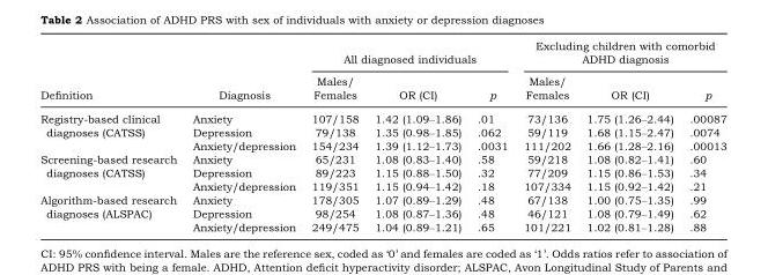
<table><thead><tr><td rowspan="2">Definition</td><td rowspan="2">Diagnosis</td><td colspan="3">All diagnosed individuals</td><td colspan="3">Excluding children with comorbid ADHD diagnosis</td></tr><tr><td>Males/ Females</td><td>OR (CI)</td><td>p</td><td>Males/ Females</td><td>OR (CI)</td><td>p</td></tr></thead><tbody><tr><td rowspan="3">Registry-based clinical diagnoses (CATSS)</td><td>Anxiety</td><td>107/158</td><td>1.42 (1.09–1.86)</td><td>.01</td><td>73/136</td><td>1.75 (1.26–2.44)</td><td>.00087</td></tr><tr><td>Depression</td><td>79/138</td><td>1.35 (0.98–1.85)</td><td>.062</td><td>59/119</td><td>1.68 (1.15–2.47)</td><td>.0074</td></tr><tr><td>Anxiety/depression</td><td>154/234</td><td>1.39 (1.12–1.73)</td><td>.0031</td><td>111/202</td><td>1.66 (1.28–2.16)</td><td>.00013</td></tr><tr><td rowspan="3">Screening-based research diagnoses (CATSS)</td><td>Anxiety</td><td>65/231</td><td>1.08 (0.83–1.40)</td><td>.58</td><td>59/218</td><td>1.08 (0.82–1.41)</td><td>.60</td></tr><tr><td>Depression</td><td>89/223</td><td>1.15 (0.88–1.50)</td><td>.32</td><td>77/209</td><td>1.15 (0.86–1.53)</td><td>.34</td></tr><tr><td>Anxiety/depression</td><td>119/351</td><td>1.15 (0.94–1.42)</td><td>.18</td><td>107/334</td><td>1.15 (0.92–1.42)</td><td>.21</td></tr><tr><td rowspan="3">Algorithm-based research diagnoses (ALSPAC)</td><td>Anxiety</td><td>178/305</td><td>1.07 (0.89–1.29)</td><td>.48</td><td>67/138</td><td>1.00 (0.75–1.35)</td><td>.99</td></tr><tr><td>Depression</td><td>98/254</td><td>1.08 (0.87–1.36)</td><td>.48</td><td>46/121</td><td>1.08 (0.79–1.49)</td><td>.62</td></tr><tr><td>Anxiety/depression</td><td>249/475</td><td>1.04 (0.89–1.21)</td><td>.65</td><td>101/221</td><td>1.02 (0.81–1.28)</td><td>.88</td></tr></tbody></table>